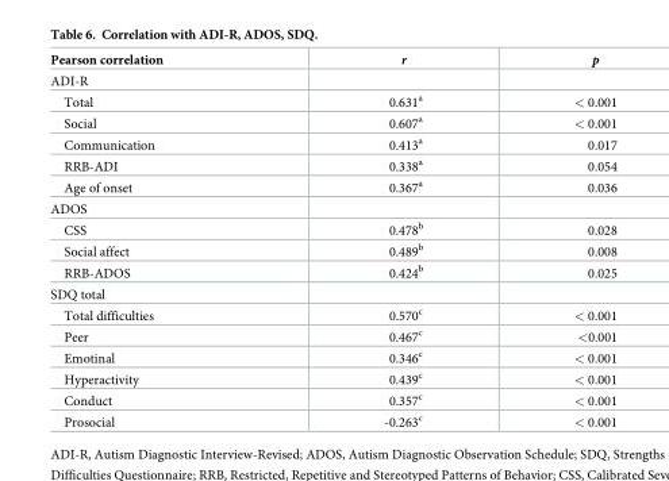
<table><thead><tr><td>Pearson correlation</td><td>r</td><td>p</td></tr></thead><tbody><tr><td colspan="3">ADI-R</td></tr><tr><td>Total</td><td>0.631<sup>a</sup></td><td>&lt; 0.001</td></tr><tr><td>Social</td><td>0.607<sup>a</sup></td><td>&lt; 0.001</td></tr><tr><td>Communication</td><td>0.413<sup>a</sup></td><td>0.017</td></tr><tr><td>RRB-ADI</td><td>0.338<sup>a</sup></td><td>0.054</td></tr><tr><td>Age of onset</td><td>0.367<sup>a</sup></td><td>0.036</td></tr><tr><td colspan="3">ADOS</td></tr><tr><td>CSS</td><td>0.478<sup>b</sup></td><td>0.028</td></tr><tr><td>Social affect</td><td>0.489<sup>b</sup></td><td>0.008</td></tr><tr><td>RRB-ADOS</td><td>0.424<sup>b</sup></td><td>0.025</td></tr><tr><td colspan="3">SDQ total</td></tr><tr><td>Total difficulties</td><td>0.570<sup>c</sup></td><td>&lt; 0.001</td></tr><tr><td>Peer</td><td>0.467<sup>c</sup></td><td>&lt;0.001</td></tr><tr><td>Emotinal</td><td>0.346<sup>c</sup></td><td>&lt; 0.001</td></tr><tr><td>Hyperactivity</td><td>0.439<sup>c</sup></td><td>&lt; 0.001</td></tr><tr><td>Conduct</td><td>0.357<sup>c</sup></td><td>&lt; 0.001</td></tr><tr><td>Prosocial</td><td>-0.263<sup>c</sup></td><td>&lt; 0.001</td></tr></tbody></table>